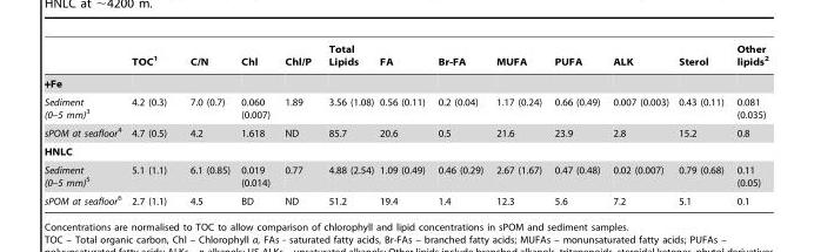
<table><thead><tr><td></td><td>TOC<sup>1</sup></td><td>C/N</td><td>Chl</td><td>Chl/P</td><td>Total Lipids</td><td>FA</td><td>Br-FA</td><td>MUFA</td><td>PUFA</td><td>ALK</td><td>Sterol</td><td>Other lipids<sup>2</sup></td></tr></thead><tbody><tr><td colspan="13">+Fe</td></tr><tr><td>Sediment (0–5 mm)3</td><td>4.2 (0.3)</td><td>7.0 (0.7)</td><td>0.060 (0.007)</td><td>1.89</td><td>3.56 (1.08)</td><td>0.56 (0.11)</td><td>0.2 (0.04)</td><td>1.17 (0.24)</td><td>0.66 (0.49)</td><td>0.007 (0.003)</td><td>0.43 (0.11)</td><td>0.081 (0.035)</td></tr><tr><td>sPOM at seafloor4</td><td>4.7 (0.5)</td><td>4.2</td><td>1.618</td><td>ND</td><td>85.7</td><td>20.6</td><td>0.5</td><td>21.6</td><td>23.9</td><td>2.8</td><td>15.2</td><td>0.8</td></tr><tr><td colspan="13">HNLC</td></tr><tr><td>Sediment (0–5 mm)5</td><td>5.1 (1.1)</td><td>6.1 (0.85)</td><td>0.019 (0.014)</td><td>0.77</td><td>4.88 (2.54)</td><td>1.09 (0.49)</td><td>0.46 (0.29)</td><td>2.67 (1.67)</td><td>0.47 (0.48)</td><td>0.02 (0.007)</td><td>0.79 (0.68)</td><td>0.11 (0.05)</td></tr><tr><td>sPOM at seafloor6</td><td>2.7 (1.1)</td><td>4.5</td><td>BD</td><td>ND</td><td>51.2</td><td>19.4</td><td>1.4</td><td>12.3</td><td>5.6</td><td>7.2</td><td>5.1</td><td>0.1</td></tr></tbody></table>